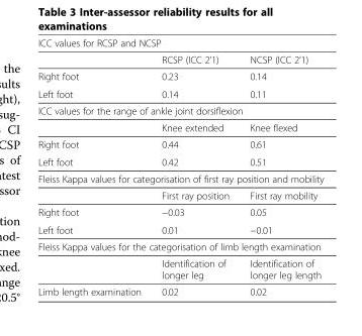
<table><tbody><tr><td colspan="3">ICC values for RCSP and NCSP</td></tr><tr><td></td><td>RCSP (ICC 2’1)</td><td>NCSP (ICC 2’1)</td></tr><tr><td>Right foot</td><td>0.23</td><td>0.14</td></tr><tr><td>Left foot</td><td>0.14</td><td>0.11</td></tr><tr><td colspan="3">ICC values for the range of ankle joint dorsiflexion</td></tr><tr><td></td><td>Knee extended</td><td>Knee flexed</td></tr><tr><td>Right foot</td><td>0.44</td><td>0.61</td></tr><tr><td>Left foot</td><td>0.42</td><td>0.51</td></tr><tr><td colspan="3">Fleiss Kappa values for categorisation of first ray position and mobility</td></tr><tr><td></td><td>First ray position</td><td>First ray mobility</td></tr><tr><td>Right foot</td><td>−0.03</td><td>0.05</td></tr><tr><td>Left foot</td><td>0.01</td><td>−0.01</td></tr><tr><td colspan="3">Fleiss Kappa values for the categorisation of limb length examination</td></tr><tr><td></td><td>Identification of longer leg</td><td>Identification of longer leg length</td></tr><tr><td>Limb length examination</td><td>0.02</td><td>0.02</td></tr></tbody></table>